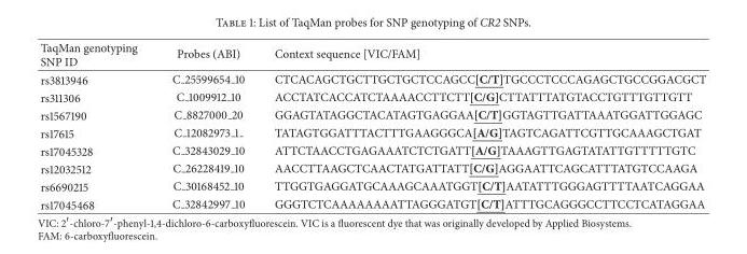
<table><thead><tr><td>TaqMan genotyping SNP ID</td><td>Probes (ABI)</td><td>Context sequence [VIC/FAM]</td></tr></thead><tbody><tr><td>rs3813946</td><td>C <sub>25599654</sub> 10</td><td>CTCACAGCTGCTTGCTGCTCCAGCC[C/T]TGCCCTCCCAGAGCTGCCGGACGCT</td></tr><tr><td>rs311306</td><td>C <sub>1009912</sub> 10</td><td>ACCTATCACCATCTAAAACCTTCTT[C/G]CTTATTTATGTACCTGTTTGTTGTT</td></tr><tr><td>rs1567190</td><td>C <sub>8827000</sub> 20</td><td>GGAGTATAGGCTACATAGTGAGGAA[C/T]GGTAGTTGATTAAATGGATTGGAGC</td></tr><tr><td>rs17615</td><td>C 12082973 1</td><td>TATAGTGGATTTACTTTGAAGGGCA[A/G]TAGTCAGATTCGTTGCAAAGCTGAT</td></tr><tr><td>rs17045328</td><td>C <sub>32843029</sub> 10</td><td>ATTCTAACCTGAGAAATCTCTGATT[A/G]TAAAGTTGAGTATATTGTTTTTGTC</td></tr><tr><td>rs12032512</td><td>C <sub>26228419</sub> 10</td><td>AACCTTAAGCTCAACTATGATTATT[C/G]AGGAATTCAGCATTTATGTCCAAGA</td></tr><tr><td>rs6690215</td><td>C <sub>30168452</sub> 10</td><td>TTGGTGAGGATGCAAAGCAAATGGT[C/T]AATATTTGGGAGTTTTAATCAGGAA</td></tr><tr><td>rs17045468</td><td>C <sub>32842997</sub> 10</td><td>GGGTCTCAAAAAAAATTAGGGATGT[C/T]ATTTGCAGGGCCTTCCTCATAGGAA</td></tr></tbody></table>